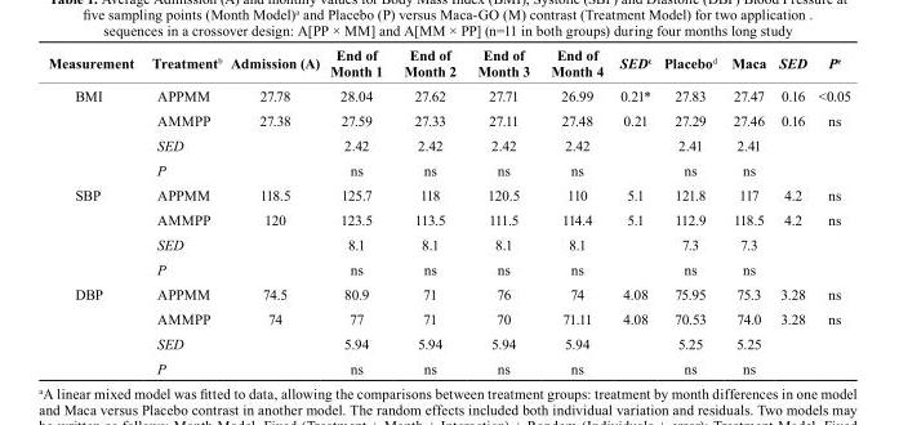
<table><thead><tr><td>Measurement</td><td>treatment<sup>b</sup></td><td>Admission (A)</td><td>End of Month 1</td><td>End of Month 2</td><td>End of Month 3</td><td>End of Month 4</td><td>SED<sup>c</sup></td><td>Placebo<sup>d</sup></td><td>Maca</td><td>SED</td><td>P<sup>e</sup></td></tr></thead><tbody><tr><td rowspan="4">BMI</td><td>APPMM</td><td>27.78</td><td>28.04</td><td>27.62</td><td>27.71</td><td>26.99</td><td>0.21*</td><td>27.83</td><td>27.47</td><td>0.16</td><td>&lt;0.05</td></tr><tr><td>AMMPP</td><td>27.38</td><td>27.59</td><td>27.33</td><td>27.11</td><td>27.48</td><td>0.21</td><td>27.29</td><td>27.46</td><td>0.16</td><td>ns</td></tr><tr><td>SED</td><td></td><td>2.42</td><td>2.42</td><td>2.42</td><td>2.42</td><td></td><td>2.41</td><td>2.41</td><td></td><td></td></tr><tr><td>P</td><td></td><td>ns</td><td>ns</td><td>ns</td><td>ns</td><td></td><td>ns</td><td>ns</td><td></td><td></td></tr><tr><td rowspan="4">SBP</td><td>APPMM</td><td>118.5</td><td>125.7</td><td>118</td><td>120.5</td><td>110</td><td>5.1</td><td>121.8</td><td>117</td><td>4.2</td><td>ns</td></tr><tr><td>AMMPP</td><td>120</td><td>123.5</td><td>113.5</td><td>111.5</td><td>114.4</td><td>5.1</td><td>112.9</td><td>118.5</td><td>4.2</td><td>ns</td></tr><tr><td>SED</td><td></td><td>8.1</td><td>8.1</td><td>8.1</td><td>8.1</td><td></td><td>7.3</td><td>7.3</td><td></td><td></td></tr><tr><td>P</td><td></td><td>ns</td><td>ns</td><td>ns</td><td>ns</td><td></td><td>ns</td><td>ns</td><td></td><td></td></tr><tr><td rowspan="4">DBP</td><td>APPMM</td><td>74.5</td><td>80.9</td><td>71</td><td>76</td><td>74</td><td>4.08</td><td>75.95</td><td>75.3</td><td>3.28</td><td>ns</td></tr><tr><td>AMMPP</td><td>74</td><td>77</td><td>71</td><td>70</td><td>71.11</td><td>4.08</td><td>70.53</td><td>74.0</td><td>3.28</td><td>ns</td></tr><tr><td>SED</td><td></td><td>5.94</td><td>5.94</td><td>5.94</td><td>5.94</td><td></td><td>5.25</td><td>5.25</td><td></td><td></td></tr><tr><td>P</td><td></td><td>ns</td><td>ns</td><td>ns</td><td>ns</td><td></td><td>ns</td><td>ns</td><td></td><td></td></tr></tbody></table>